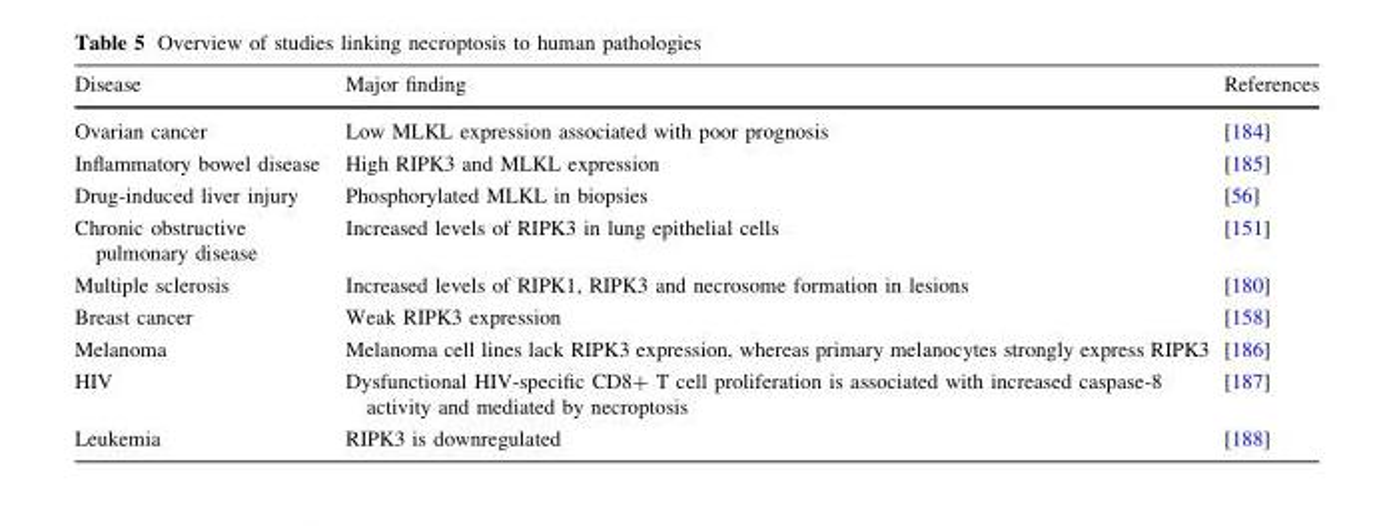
<table><thead><tr><td>Disease</td><td>Major finding</td><td>References</td></tr></thead><tbody><tr><td>Ovarian cancer</td><td>Low MLKL expression associated with poor prognosis</td><td>[184]</td></tr><tr><td>Inflammatory bowel disease</td><td>High RIPK3 and MLKL expression</td><td>[185]</td></tr><tr><td>Drug-induced liver injury</td><td>Phosphorylated MLKL in biopsies</td><td>[56]</td></tr><tr><td>Chronic obstructive pulmonary disease</td><td>Increased levels of RIPK3 in lung epithelial cells</td><td>[151]</td></tr><tr><td>Multiple sclerosis</td><td>Increased levels of RIPK1, RIPK3 and necrosome formation in lesions</td><td>[180]</td></tr><tr><td>Breast cancer</td><td>Weak RIPK3 expression</td><td>[158]</td></tr><tr><td>Melanoma</td><td>Melanoma cell lines lack RIPK3 expression, whereas primary melanocytes strongly express RIPK3</td><td>[186]</td></tr><tr><td>HIV</td><td>Dysfunctional HIV-specific CD8+ T cell proliferation is associated with increased caspase-8 activity and mediated by necroptosis</td><td>[187]</td></tr><tr><td>Leukemia</td><td>RIPK3 is downregulated</td><td>[188]</td></tr></tbody></table>